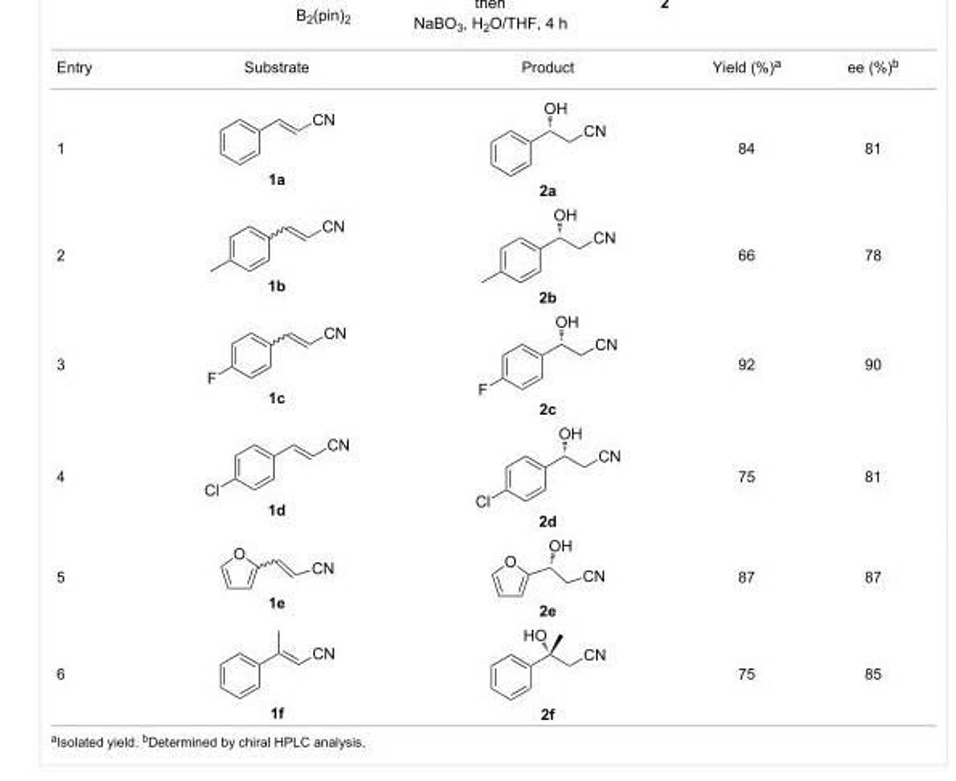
<table><tbody><tr><td>Entry</td><td>Substrate</td><td>Product</td><td>Yield (%)<sup>a</sup></td><td>ee (%)<sup>b</sup></td></tr><tr><td>1</td><td>1a</td><td>2a</td><td>84</td><td>81</td></tr><tr><td>2</td><td>1b</td><td>2b</td><td>66</td><td>78</td></tr><tr><td>3</td><td>1c</td><td>2c</td><td>92</td><td>90</td></tr><tr><td>4</td><td>1d</td><td>2d</td><td>75</td><td>81</td></tr><tr><td>5</td><td>1e</td><td>2e</td><td>87</td><td>87</td></tr><tr><td>6</td><td>1f</td><td>2f</td><td>75</td><td>85</td></tr></tbody></table>